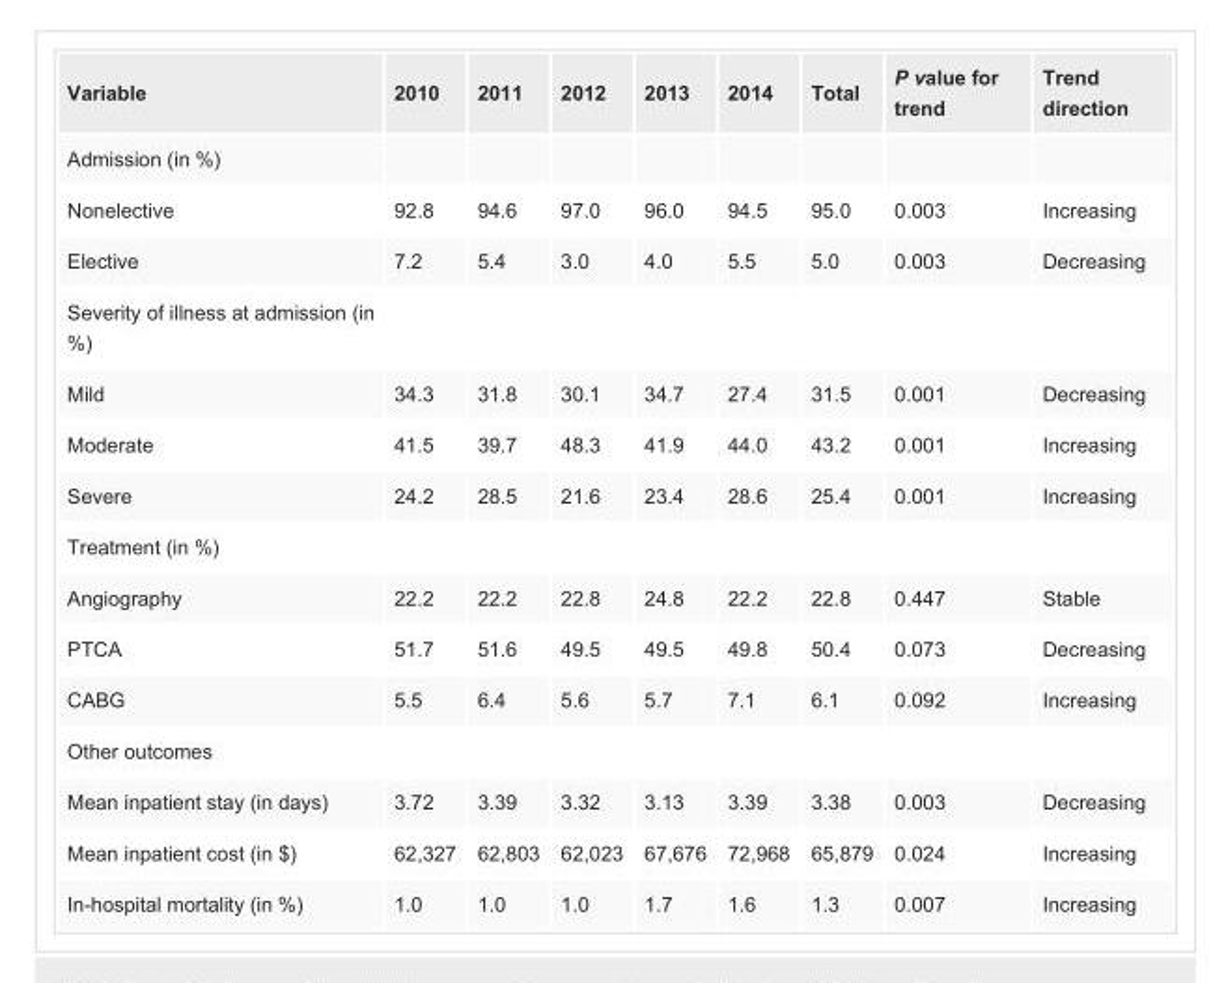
<table><tbody><tr><td>Variable</td><td>2010</td><td>2011</td><td>2012</td><td>2013</td><td>2014</td><td>Total</td><td>P value for trend</td><td>Trend direction</td></tr><tr><td colspan="9">Admission (in %)</td></tr><tr><td>Nonelective</td><td>92.8</td><td>94.6</td><td>97.0</td><td>96.0</td><td>94.5</td><td>95.0</td><td>0.003</td><td>Increasing</td></tr><tr><td>Elective</td><td>7.2</td><td>5.4</td><td>3.0</td><td>4.0</td><td>5.5</td><td>5.0</td><td>0.003</td><td>Decreasing</td></tr><tr><td colspan="9">Severity of illness at admission (in %)</td></tr><tr><td>Mild</td><td>34.3</td><td>31.8</td><td>30.1</td><td>34.7</td><td>27.4</td><td>31.5</td><td>0.001</td><td>Decreasing</td></tr><tr><td>Moderate</td><td>41.5</td><td>39.7</td><td>48.3</td><td>41.9</td><td>44.0</td><td>43.2</td><td>0.001</td><td>Increasing</td></tr><tr><td>Severe</td><td>24.2</td><td>28.5</td><td>21.6</td><td>23.4</td><td>28.6</td><td>25.4</td><td>0.001</td><td>Increasing</td></tr><tr><td colspan="9">Treatment (in %)</td></tr><tr><td>Angiography</td><td>22.2</td><td>22.2</td><td>22.8</td><td>24.8</td><td>22.2</td><td>22.8</td><td>0.447</td><td>Stable</td></tr><tr><td>PTCA</td><td>51.7</td><td>51.6</td><td>49.5</td><td>49.5</td><td>49.8</td><td>50.4</td><td>0.073</td><td>Decreasing</td></tr><tr><td>CABG</td><td>5.5</td><td>6.4</td><td>5.6</td><td>5.7</td><td>7.1</td><td>6.1</td><td>0.092</td><td>Increasing</td></tr><tr><td colspan="9">Other outcomes</td></tr><tr><td>Mean inpatient stay (in days)</td><td>3.72</td><td>3.39</td><td>3.32</td><td>3.13</td><td>3.39</td><td>3.38</td><td>0.003</td><td>Decreasing</td></tr><tr><td>Mean inpatient cost (in $)</td><td>62,327</td><td>62,803</td><td>62,023</td><td>67,676</td><td>72,968</td><td>65,879</td><td>0.024</td><td>Increasing</td></tr><tr><td>In-hospital mortality (in %)</td><td>1.0</td><td>1.0</td><td>1.0</td><td>1.7</td><td>1.6</td><td>1.3</td><td>0.007</td><td>Increasing</td></tr></tbody></table>